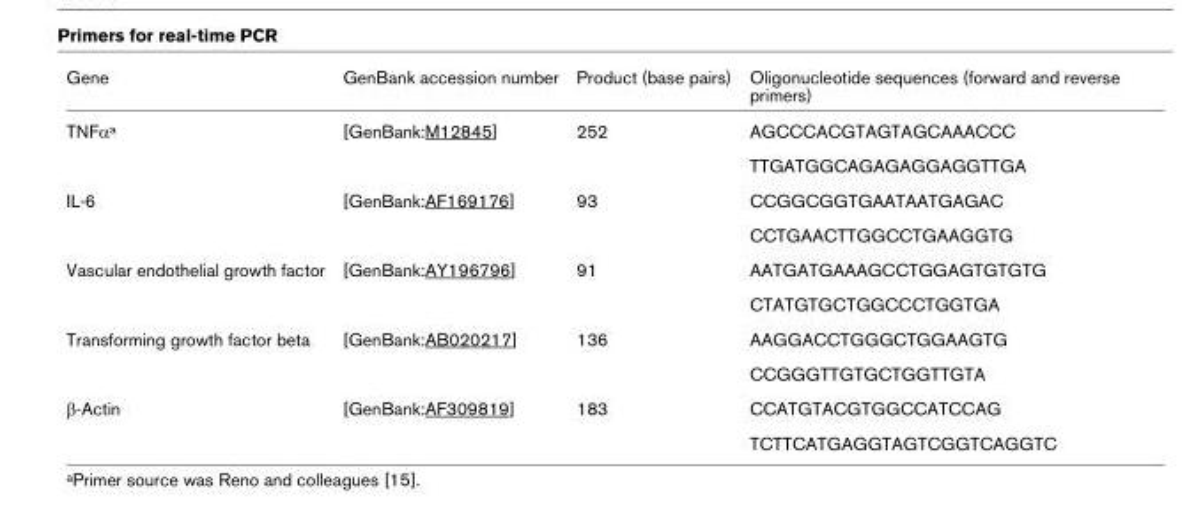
<table><thead><tr><td>Gene</td><td>GenBank accession number</td><td>Product (base pairs)</td><td>Oligonucleotide sequences (forward and reverse primers)</td></tr></thead><tbody><tr><td rowspan="2">TNFα<sup>a</sup></td><td>[GenBank:M12845]</td><td>252</td><td>AGCCCACGTAGTAGCAAACCC</td></tr><tr><td></td><td></td><td>TTGATGGCAGAGAGGAGGTTGA</td></tr><tr><td rowspan="2">IL-6</td><td>[GenBank:AF169176]</td><td>93</td><td>CCGGCGGTGAATAATGAGAC</td></tr><tr><td></td><td></td><td>CCTGAACTTGGCCTGAAGGTG</td></tr><tr><td rowspan="2">Vascular endothelial growth factor</td><td>[GenBank:AY196796]</td><td>91</td><td>AATGATGAAAGCCTGGAGTGTGTG</td></tr><tr><td></td><td></td><td>CTATGTGCTGGCCCTGGTGA</td></tr><tr><td rowspan="2">Transforming growth factor beta</td><td>[GenBank:AB020217]</td><td>136</td><td>AAGGACCTGGGCTGGAAGTG</td></tr><tr><td></td><td></td><td>CCGGGTTGTGCTGGTTGTA</td></tr><tr><td rowspan="2">β-Actin</td><td>[GenBank:AF309819]</td><td>183</td><td>CCATGTACGTGGCCATCCAG</td></tr><tr><td></td><td></td><td>TCTTCATGAGGTAGTCGGTCAGGTC</td></tr></tbody></table>